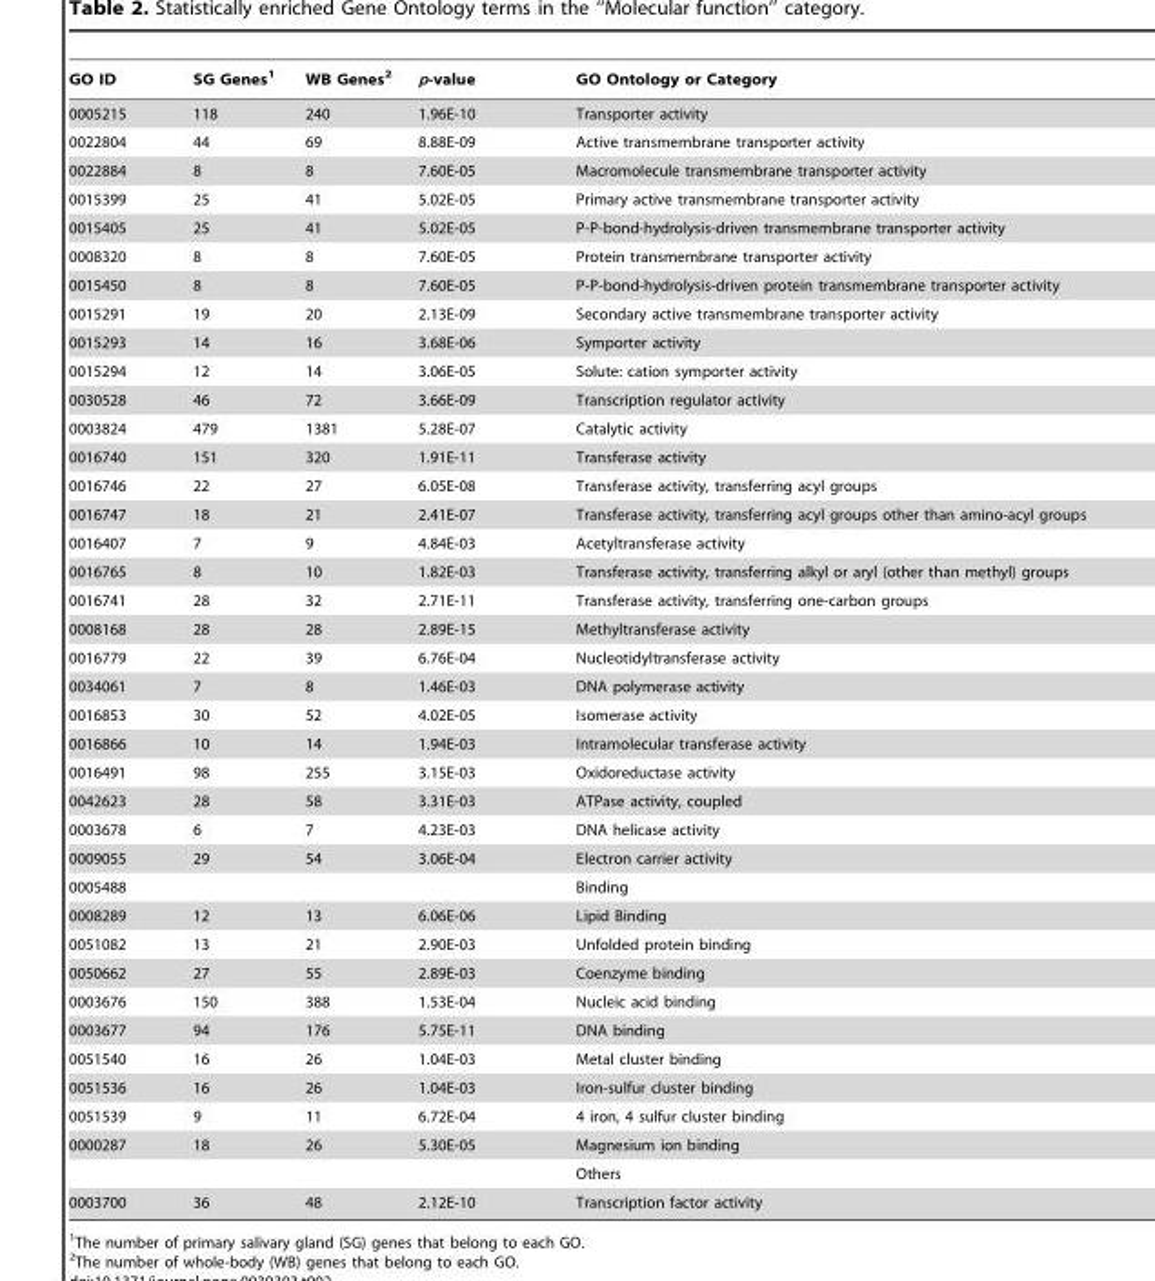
<table><thead><tr><td>GO ID</td><td>SG Genes<sup>1</sup></td><td>WB Genes<sup>2</sup></td><td>p-value</td><td>GO Ontology or Category</td></tr></thead><tbody><tr><td>0005215</td><td>118</td><td>240</td><td>1.96E-10</td><td>Transporter activity</td></tr><tr><td>0022804</td><td>44</td><td>69</td><td>8.88E-09</td><td>Active transmembrane transporter activity</td></tr><tr><td>0022884</td><td>8</td><td>8</td><td>7.60E-05</td><td>Macromolecule transmembrane transporter activity</td></tr><tr><td>0015399</td><td>25</td><td>41</td><td>5.02E-05</td><td>Primary active transmembrane transporter activity</td></tr><tr><td>0015405</td><td>25</td><td>41</td><td>5.02E-05</td><td>P-P-bond-hydrolysis-driven transmembrane transporter activity</td></tr><tr><td>0008320</td><td>8</td><td>8</td><td>7.60E-05</td><td>Protein transmembrane transporter activity</td></tr><tr><td>0015450</td><td>8</td><td>8</td><td>7.60E-05</td><td>P-P-bond-hydrolysis-driven protein transmembrane transporter activity</td></tr><tr><td>0015291</td><td>19</td><td>20</td><td>2.13E-09</td><td>Secondary active transmembrane transporter activity</td></tr><tr><td>0015293</td><td>14</td><td>16</td><td>3.68E-06</td><td>Symporter activity</td></tr><tr><td>0015294</td><td>12</td><td>14</td><td>3.06E-05</td><td>Solute: cation symporter activity</td></tr><tr><td>0030528</td><td>46</td><td>72</td><td>3.66E-09</td><td>Transcription regulator activity</td></tr><tr><td>0003824</td><td>479</td><td>1381</td><td>5.28E-07</td><td>Catalytic activity</td></tr><tr><td>0016740</td><td>151</td><td>320</td><td>1.91E-11</td><td>Transferase activity</td></tr><tr><td>0016746</td><td>22</td><td>27</td><td>6.05E-08</td><td>Transferase activity, transferring acyl groups</td></tr><tr><td>0016747</td><td>18</td><td>21</td><td>2.41E-07</td><td>Transferase activity, transferring acyl groups other than amino-acyl groups</td></tr><tr><td>0016407</td><td>7</td><td>9</td><td>4.84E-03</td><td>Acetyltransferase activity</td></tr><tr><td>0016765</td><td>8</td><td>10</td><td>1.82E-03</td><td>Transferase activity, transferring alkyl or aryl (other than methyl) groups</td></tr><tr><td>0016741</td><td>28</td><td>32</td><td>2.71E-11</td><td>Transferase activity, transferring one-carbon groups</td></tr><tr><td>0008168</td><td>28</td><td>28</td><td>2.89E-15</td><td>Methyltransferase activity</td></tr><tr><td>0016779</td><td>22</td><td>39</td><td>6.76E-04</td><td>Nucleotidyltransferase activity</td></tr><tr><td>0034061</td><td>7</td><td>8</td><td>1.46E-03</td><td>DNA polymerase activity</td></tr><tr><td>0016853</td><td>30</td><td>52</td><td>4.02E-05</td><td>Isomerase activity</td></tr><tr><td>0016866</td><td>10</td><td>14</td><td>1.94E-03</td><td>Intramolecular transferase activity</td></tr><tr><td>0016491</td><td>98</td><td>255</td><td>3.15E-03</td><td>Oxidoreductase activity</td></tr><tr><td>0042623</td><td>28</td><td>58</td><td>3.31E-03</td><td>ATPase activity, coupled</td></tr><tr><td>0003678</td><td>6</td><td>7</td><td>4.23E-03</td><td>DNA helicase activity</td></tr><tr><td>0009055</td><td>29</td><td>54</td><td>3.06E-04</td><td>Electron carrier activity</td></tr><tr><td>0005488</td><td></td><td></td><td></td><td>Binding</td></tr><tr><td>0008289</td><td>12</td><td>13</td><td>6.06E-06</td><td>Lipid Binding</td></tr><tr><td>0051082</td><td>13</td><td>21</td><td>2.90E-03</td><td>Unfolded protein binding</td></tr><tr><td>0050662</td><td>27</td><td>55</td><td>2.89E-03</td><td>Coenzyme binding</td></tr><tr><td>0003676</td><td>150</td><td>388</td><td>1.53E-04</td><td>Nucleic acid binding</td></tr><tr><td>0003677</td><td>94</td><td>176</td><td>5.75E-11</td><td>DNA binding</td></tr><tr><td>0051540</td><td>16</td><td>26</td><td>1.04E-03</td><td>Metal cluster binding</td></tr><tr><td>0051536</td><td>16</td><td>26</td><td>1.04E-03</td><td>Iron-sulfur cluster binding</td></tr><tr><td>0051539</td><td>9</td><td>11</td><td>6.72E-04</td><td>4 iron, 4 sulfur cluster binding</td></tr><tr><td rowspan="2">0000287</td><td>18</td><td>26</td><td>5.30E-05</td><td>Magnesium ion binding</td></tr><tr><td></td><td></td><td></td><td>Others</td></tr><tr><td>0003700</td><td>36</td><td>48</td><td>2.12E-10</td><td>Transcription factor activity</td></tr></tbody></table>